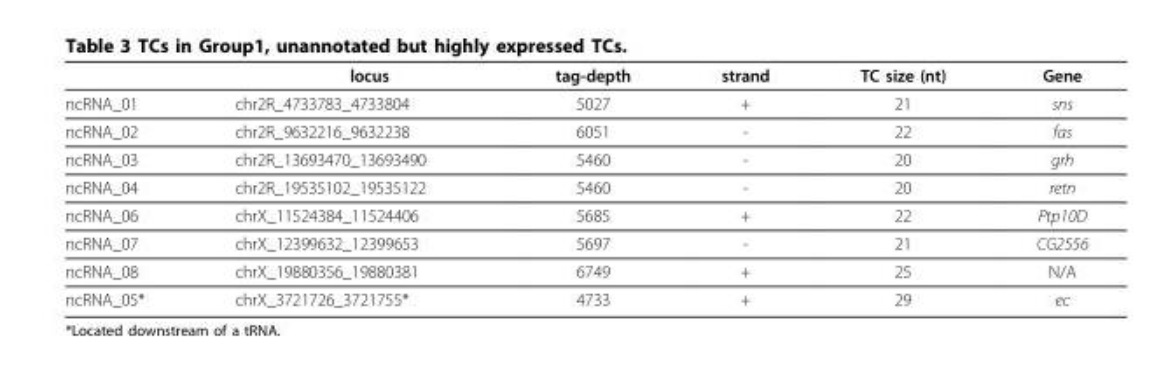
<table><thead><tr><td></td><td>locus</td><td>tag-depth</td><td>strand</td><td>TC size (nt)</td><td>Gene</td></tr></thead><tbody><tr><td>ncRNA_01</td><td>chr2R_4733783_4733804</td><td>5027</td><td>+</td><td>21</td><td>sns</td></tr><tr><td>ncRNA_02</td><td>chr2R_9632216_9632238</td><td>6051</td><td>-</td><td>22</td><td>fas</td></tr><tr><td>ncRNA_03</td><td>chr2R_13693470_13693490</td><td>5460</td><td>-</td><td>20</td><td>grh</td></tr><tr><td>ncRNA_04</td><td>chr2R_19535102_19535122</td><td>5460</td><td>-</td><td>20</td><td>retn</td></tr><tr><td>ncRNA_06</td><td>chrX_11524384_11524406</td><td>5685</td><td>+</td><td>22</td><td>Ptp10D</td></tr><tr><td>ncRNA_07</td><td>chrX_12399632_12399653</td><td>5697</td><td>-</td><td>21</td><td>CG2556</td></tr><tr><td>ncRNA_08</td><td>chrX_19880356_19880381</td><td>6749</td><td>+</td><td>25</td><td>N/A</td></tr><tr><td>ncRNA_05*</td><td>chrX_3721726_3721755*</td><td>4733</td><td>+</td><td>29</td><td>ec</td></tr></tbody></table>